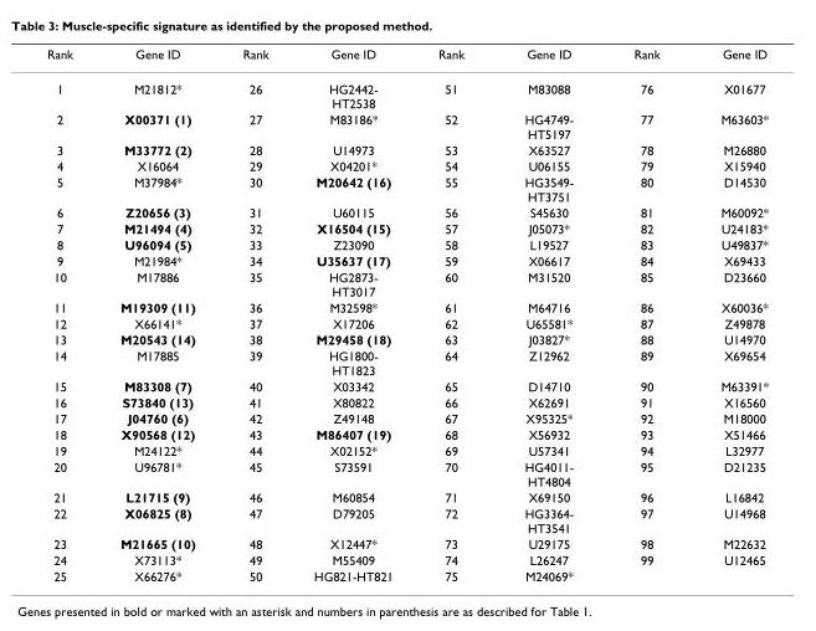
<table><thead><tr><td>Rank</td><td>Gene ID</td><td>Rank</td><td>Gene ID</td><td>Rank</td><td>Gene ID</td><td>Rank</td><td>Gene ID</td></tr></thead><tbody><tr><td>1</td><td>M21812*</td><td>26</td><td>HG2442- HT2538</td><td>51</td><td>M83088</td><td>76</td><td>X01677</td></tr><tr><td>2</td><td>X00371 (1)</td><td>27</td><td>M83186*</td><td>52</td><td>HG4749- HT5197</td><td>77</td><td>M63603*</td></tr><tr><td>3</td><td>M33772 (2)</td><td>28</td><td>U14973</td><td>53</td><td>X63527</td><td>78</td><td>M26880</td></tr><tr><td>4</td><td>X16064</td><td>29</td><td>X04201*</td><td>54</td><td>U06155</td><td>79</td><td>X15940</td></tr><tr><td>5</td><td>M37984*</td><td>30</td><td>M20642 (16)</td><td>55</td><td>HG3549- HT3751</td><td>80</td><td>D14530</td></tr><tr><td>6</td><td>Z20656 (3)</td><td>31</td><td>U60115</td><td>56</td><td>S45630</td><td>81</td><td>M60092*</td></tr><tr><td>7</td><td>M21494 (4)</td><td>32</td><td>X16504 (15)</td><td>57</td><td>J05073*</td><td>82</td><td>U24183*</td></tr><tr><td>8</td><td>U96094 (5)</td><td>33</td><td>Z23090</td><td>58</td><td>L19527</td><td>83</td><td>U49837*</td></tr><tr><td>9</td><td>M21984*</td><td>34</td><td>U35637 (17)</td><td>59</td><td>X06617</td><td>84</td><td>X69433</td></tr><tr><td>10</td><td>M17886</td><td>35</td><td>HG2873- HT3017</td><td>60</td><td>M31520</td><td>85</td><td>D23660</td></tr><tr><td>11</td><td>M19309 (11)</td><td>36</td><td>M32598*</td><td>61</td><td>M64716</td><td>86</td><td>X60036*</td></tr><tr><td>12</td><td>X66141*</td><td>37</td><td>X17206</td><td>62</td><td>U65581*</td><td>87</td><td>Z49878</td></tr><tr><td>13</td><td>M20543 (14)</td><td>38</td><td>M29458 (18)</td><td>63</td><td>J03827*</td><td>88</td><td>U14970</td></tr><tr><td>14</td><td>M17885</td><td>39</td><td>HG1800- HT1823</td><td>64</td><td>Z12962</td><td>89</td><td>X69654</td></tr><tr><td>15</td><td>M83308 (7)</td><td>40</td><td>X03342</td><td>65</td><td>D14710</td><td>90</td><td>M63391*</td></tr><tr><td>16</td><td>S73840 (13)</td><td>41</td><td>X80822</td><td>66</td><td>X62691</td><td>91</td><td>X16560</td></tr><tr><td>17</td><td>J04760 (6)</td><td>42</td><td>Z49148</td><td>67</td><td>X95325*</td><td>92</td><td>M18000</td></tr><tr><td>18</td><td>X90568 (12)</td><td>43</td><td>M86407 (19)</td><td>68</td><td>X56932</td><td>93</td><td>X51466</td></tr><tr><td>19</td><td>M24122*</td><td>44</td><td>X02152*</td><td>69</td><td>U57341</td><td>94</td><td>L32977</td></tr><tr><td>20</td><td>U96781*</td><td>45</td><td>S73591</td><td>70</td><td>HG4011- HT4804</td><td>95</td><td>D21235</td></tr><tr><td>21</td><td>L21715 (9)</td><td>46</td><td>M60854</td><td>71</td><td>X69150</td><td>96</td><td>L16842</td></tr><tr><td>22</td><td>X06825 (8)</td><td>47</td><td>D79205</td><td>72</td><td>HG3364- HT3541</td><td>97</td><td>U14968</td></tr><tr><td>23</td><td>M21665 (10)</td><td>48</td><td>X12447*</td><td>73</td><td>U29175</td><td>98</td><td>M22632</td></tr><tr><td>24</td><td>X73113*</td><td>49</td><td>M55409</td><td>74</td><td>L26247</td><td>99</td><td>U12465</td></tr><tr><td>25</td><td>X66276*</td><td>50</td><td>HG821-HT821</td><td>75</td><td>M24069*</td><td></td><td></td></tr></tbody></table>